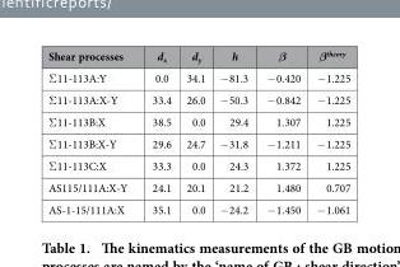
<table><tbody><tr><td>Shear processes</td><td>d<sub>x</sub></td><td>d<sub>y</sub></td><td>h</td><td>β</td><td>β<sup>theory</sup></td></tr><tr><td>Σ 11-113A:Y</td><td>0.0</td><td>34.1</td><td>− 81.3</td><td>− 0.420</td><td>− 1.225</td></tr><tr><td>Σ 11-113A:X-Y</td><td>33.4</td><td>26.0</td><td>− 50.3</td><td>− 0.842</td><td>− 1.225</td></tr><tr><td>Σ 11-113B:X</td><td>38.5</td><td>0.0</td><td>29.4</td><td>1.307</td><td>1.225</td></tr><tr><td>Σ 11-113B:X-Y</td><td>29.6</td><td>24.7</td><td>− 31.8</td><td>− 1.211</td><td>− 1.225</td></tr><tr><td>Σ 11-113C:X</td><td>33.3</td><td>0.0</td><td>24.3</td><td>1.372</td><td>1.225</td></tr><tr><td>AS115/111A:X-Y</td><td>24.1</td><td>20.1</td><td>21.2</td><td>1.480</td><td>0.707</td></tr><tr><td>AS-1-15/111A:X</td><td>35.1</td><td>0.0</td><td>− 24.2</td><td>− 1.450</td><td>− 1.061</td></tr></tbody></table>